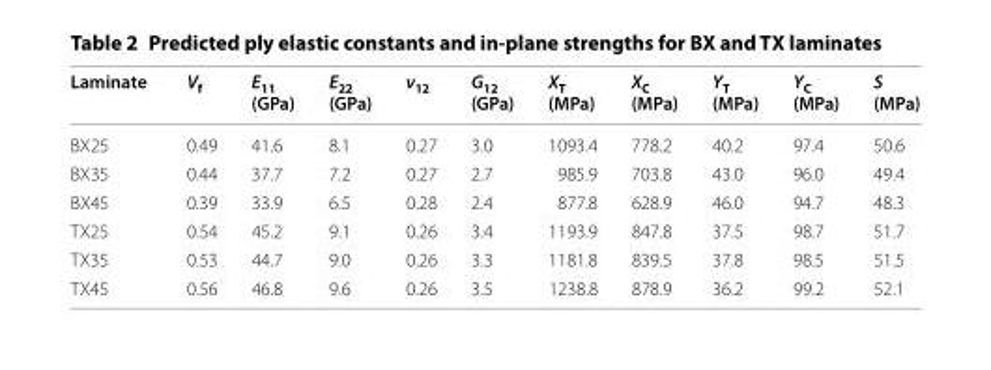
<table><thead><tr><td>Laminate</td><td>V<sub>f</sub></td><td>E<sub>11</sub> (GPa)</td><td>E<sub>22</sub> (GPa)</td><td>ν<sub>12</sub></td><td>G<sub>12</sub> (GPa)</td><td>X<sub>T</sub> (MPa)</td><td>X<sub>C</sub> (MPa)</td><td>Y<sub>T</sub> (MPa)</td><td>Y<sub>C</sub> (MPa)</td><td>S (MPa)</td></tr></thead><tbody><tr><td>BX25</td><td>0.49</td><td>41.6</td><td>8.1</td><td>0.27</td><td>3.0</td><td>1093.4</td><td>778.2</td><td>40.2</td><td>97.4</td><td>50.6</td></tr><tr><td>BX35</td><td>0.44</td><td>37.7</td><td>7.2</td><td>0.27</td><td>2.7</td><td>985.9</td><td>703.8</td><td>43.0</td><td>96.0</td><td>49.4</td></tr><tr><td>BX45</td><td>0.39</td><td>33.9</td><td>6.5</td><td>0.28</td><td>2.4</td><td>877.8</td><td>628.9</td><td>46.0</td><td>94.7</td><td>48.3</td></tr><tr><td>TX25</td><td>0.54</td><td>45.2</td><td>9.1</td><td>0.26</td><td>3.4</td><td>1193.9</td><td>847.8</td><td>37.5</td><td>98.7</td><td>51.7</td></tr><tr><td>TX35</td><td>0.53</td><td>44.7</td><td>9.0</td><td>0.26</td><td>3.3</td><td>1181.8</td><td>839.5</td><td>37.8</td><td>98.5</td><td>51.5</td></tr><tr><td>TX45</td><td>0.56</td><td>46.8</td><td>9.6</td><td>0.26</td><td>3.5</td><td>1238.8</td><td>878.9</td><td>36.2</td><td>99.2</td><td>52.1</td></tr></tbody></table>